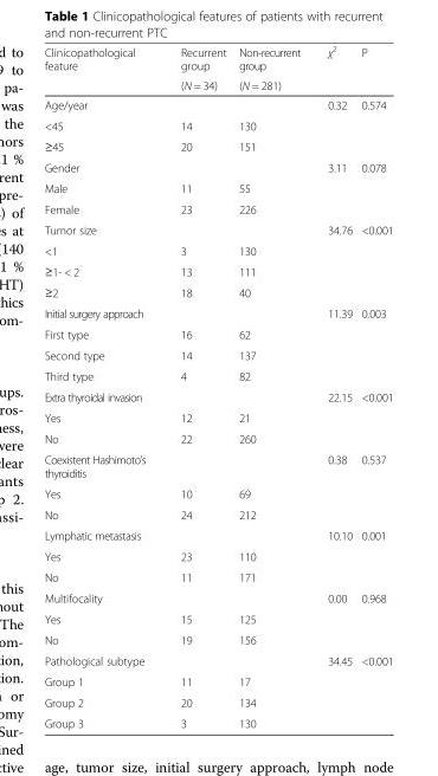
<table><thead><tr><td rowspan="2">Clinicopathological feature</td><td rowspan="2">Recurrent group (N = 34)</td><td rowspan="2">Non-recurrent group (N = 281)</td><td rowspan="2">χ<sup>2</sup></td><td rowspan="2">P</td></tr><tr></tr></thead><tbody><tr><td>Age/year</td><td></td><td></td><td>0.32</td><td>0.574</td></tr><tr><td>&lt;45</td><td>14</td><td>130</td><td></td><td></td></tr><tr><td>≥45</td><td>20</td><td>151</td><td></td><td></td></tr><tr><td>Gender</td><td></td><td></td><td>3.11</td><td>0.078</td></tr><tr><td>Male</td><td>11</td><td>55</td><td></td><td></td></tr><tr><td>Female</td><td>23</td><td>226</td><td></td><td></td></tr><tr><td>Tumor size</td><td></td><td></td><td>34.76</td><td>&lt;0.001</td></tr><tr><td>&lt;1</td><td>3</td><td>130</td><td></td><td></td></tr><tr><td>≥1- &lt; 2</td><td>13</td><td>111</td><td></td><td></td></tr><tr><td>≥2</td><td>18</td><td>40</td><td></td><td></td></tr><tr><td>Initial surgery approach</td><td></td><td></td><td>11.39</td><td>0.003</td></tr><tr><td>First type</td><td>16</td><td>62</td><td></td><td></td></tr><tr><td>Second type</td><td>14</td><td>137</td><td></td><td></td></tr><tr><td>Third type</td><td>4</td><td>82</td><td></td><td></td></tr><tr><td>Extra thyroidal invasion</td><td></td><td></td><td>22.15</td><td>&lt;0.001</td></tr><tr><td>Yes</td><td>12</td><td>21</td><td></td><td></td></tr><tr><td>No</td><td>22</td><td>260</td><td></td><td></td></tr><tr><td>Coexistent Hashimoto’s thyroiditis</td><td></td><td></td><td>0.38</td><td>0.537</td></tr><tr><td>Yes</td><td>10</td><td>69</td><td></td><td></td></tr><tr><td>No</td><td>24</td><td>212</td><td></td><td></td></tr><tr><td>Lymphatic metastasis</td><td></td><td></td><td>10.10</td><td>0.001</td></tr><tr><td>Yes</td><td>23</td><td>110</td><td></td><td></td></tr><tr><td>No</td><td>11</td><td>171</td><td></td><td></td></tr><tr><td>Multifocality</td><td></td><td></td><td>0.00</td><td>0.968</td></tr><tr><td>Yes</td><td>15</td><td>125</td><td></td><td></td></tr><tr><td>No</td><td>19</td><td>156</td><td></td><td></td></tr><tr><td>Pathological subtype</td><td></td><td></td><td>34.45</td><td>&lt;0.001</td></tr><tr><td>Group 1</td><td>11</td><td>17</td><td></td><td></td></tr><tr><td>Group 2</td><td>20</td><td>134</td><td></td><td></td></tr><tr><td>Group 3</td><td>3</td><td>130</td><td></td><td></td></tr></tbody></table>